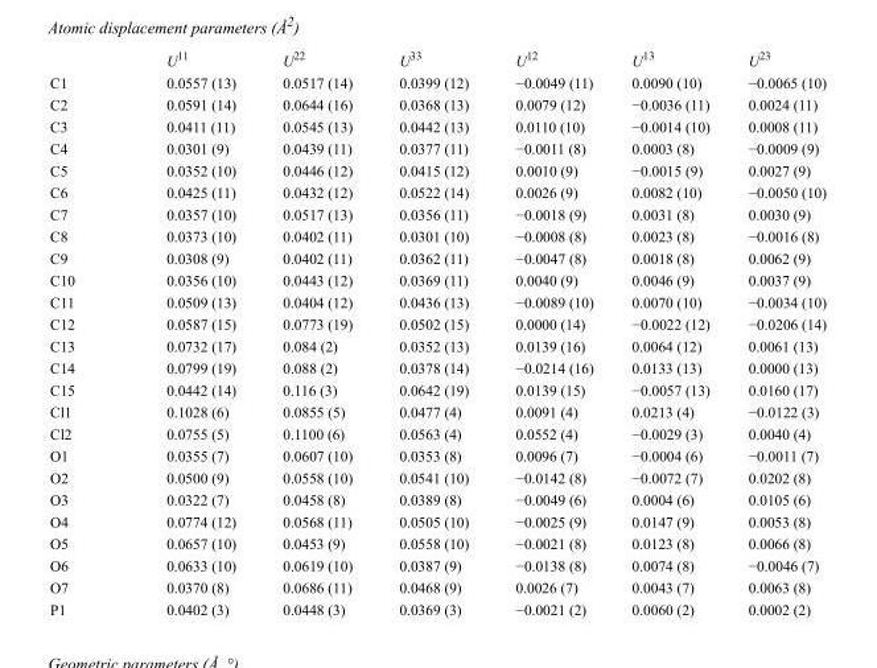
<table><thead><tr><td></td><td>U<sup>11</sup></td><td>U<sup>22</sup></td><td>U<sup>33</sup></td><td>U<sup>12</sup></td><td>U<sup>13</sup></td><td>U<sup>23</sup></td></tr></thead><tbody><tr><td>C1</td><td>0.0557 (13)</td><td>0.0517 (14)</td><td>0.0399 (12)</td><td>−0.0049 (11)</td><td>0.0090 (10)</td><td>−0.0065 (10)</td></tr><tr><td>C2</td><td>0.0591 (14)</td><td>0.0644 (16)</td><td>0.0368 (13)</td><td>0.0079 (12)</td><td>−0.0036 (11)</td><td>0.0024 (11)</td></tr><tr><td>C3</td><td>0.0411 (11)</td><td>0.0545 (13)</td><td>0.0442 (13)</td><td>0.0110 (10)</td><td>−0.0014 (10)</td><td>0.0008 (11)</td></tr><tr><td>C4</td><td>0.0301 (9)</td><td>0.0439 (11)</td><td>0.0377 (11)</td><td>−0.0011 (8)</td><td>0.0003 (8)</td><td>−0.0009 (9)</td></tr><tr><td>C5</td><td>0.0352 (10)</td><td>0.0446 (12)</td><td>0.0415 (12)</td><td>0.0010 (9)</td><td>−0.0015 (9)</td><td>0.0027 (9)</td></tr><tr><td>C6</td><td>0.0425 (11)</td><td>0.0432 (12)</td><td>0.0522 (14)</td><td>0.0026 (9)</td><td>0.0082 (10)</td><td>−0.0050 (10)</td></tr><tr><td>C7</td><td>0.0357 (10)</td><td>0.0517 (13)</td><td>0.0356 (11)</td><td>−0.0018 (9)</td><td>0.0031 (8)</td><td>0.0030 (9)</td></tr><tr><td>C8</td><td>0.0373 (10)</td><td>0.0402 (11)</td><td>0.0301 (10)</td><td>−0.0008 (8)</td><td>0.0023 (8)</td><td>−0.0016 (8)</td></tr><tr><td>C9</td><td>0.0308 (9)</td><td>0.0402 (11)</td><td>0.0362 (11)</td><td>−0.0047 (8)</td><td>0.0018 (8)</td><td>0.0062 (9)</td></tr><tr><td>C10</td><td>0.0356 (10)</td><td>0.0443 (12)</td><td>0.0369 (11)</td><td>0.0040 (9)</td><td>0.0046 (9)</td><td>0.0037 (9)</td></tr><tr><td>C11</td><td>0.0509 (13)</td><td>0.0404 (12)</td><td>0.0436 (13)</td><td>−0.0089 (10)</td><td>0.0070 (10)</td><td>−0.0034 (10)</td></tr><tr><td>C12</td><td>0.0587 (15)</td><td>0.0773 (19)</td><td>0.0502 (15)</td><td>0.0000 (14)</td><td>−0.0022 (12)</td><td>−0.0206 (14)</td></tr><tr><td>C13</td><td>0.0732 (17)</td><td>0.084 (2)</td><td>0.0352 (13)</td><td>0.0139 (16)</td><td>0.0064 (12)</td><td>0.0061 (13)</td></tr><tr><td>C14</td><td>0.0799 (19)</td><td>0.088 (2)</td><td>0.0378 (14)</td><td>−0.0214 (16)</td><td>0.0133 (13)</td><td>0.0000 (13)</td></tr><tr><td>C15</td><td>0.0442 (14)</td><td>0.116 (3)</td><td>0.0642 (19)</td><td>0.0139 (15)</td><td>−0.0057 (13)</td><td>0.0160 (17)</td></tr><tr><td>Cl1</td><td>0.1028 (6)</td><td>0.0855 (5)</td><td>0.0477 (4)</td><td>0.0091 (4)</td><td>0.0213 (4)</td><td>−0.0122 (3)</td></tr><tr><td>Cl2</td><td>0.0755 (5)</td><td>0.1100 (6)</td><td>0.0563 (4)</td><td>0.0552 (4)</td><td>−0.0029 (3)</td><td>0.0040 (4)</td></tr><tr><td>O1</td><td>0.0355 (7)</td><td>0.0607 (10)</td><td>0.0353 (8)</td><td>0.0096 (7)</td><td>−0.0004 (6)</td><td>−0.0011 (7)</td></tr><tr><td>O2</td><td>0.0500 (9)</td><td>0.0558 (10)</td><td>0.0541 (10)</td><td>−0.0142 (8)</td><td>−0.0072 (7)</td><td>0.0202 (8)</td></tr><tr><td>O3</td><td>0.0322 (7)</td><td>0.0458 (8)</td><td>0.0389 (8)</td><td>−0.0049 (6)</td><td>0.0004 (6)</td><td>0.0105 (6)</td></tr><tr><td>O4</td><td>0.0774 (12)</td><td>0.0568 (11)</td><td>0.0505 (10)</td><td>−0.0025 (9)</td><td>0.0147 (9)</td><td>0.0053 (8)</td></tr><tr><td>O5</td><td>0.0657 (10)</td><td>0.0453 (9)</td><td>0.0558 (10)</td><td>−0.0021 (8)</td><td>0.0123 (8)</td><td>0.0066 (8)</td></tr><tr><td>O6</td><td>0.0633 (10)</td><td>0.0619 (10)</td><td>0.0387 (9)</td><td>−0.0138 (8)</td><td>0.0074 (8)</td><td>−0.0046 (7)</td></tr><tr><td>O7</td><td>0.0370 (8)</td><td>0.0686 (11)</td><td>0.0468 (9)</td><td>0.0026 (7)</td><td>0.0043 (7)</td><td>0.0063 (8)</td></tr><tr><td>P1</td><td>0.0402 (3)</td><td>0.0448 (3)</td><td>0.0369 (3)</td><td>−0.0021 (2)</td><td>0.0060 (2)</td><td>0.0002 (2)</td></tr></tbody></table>